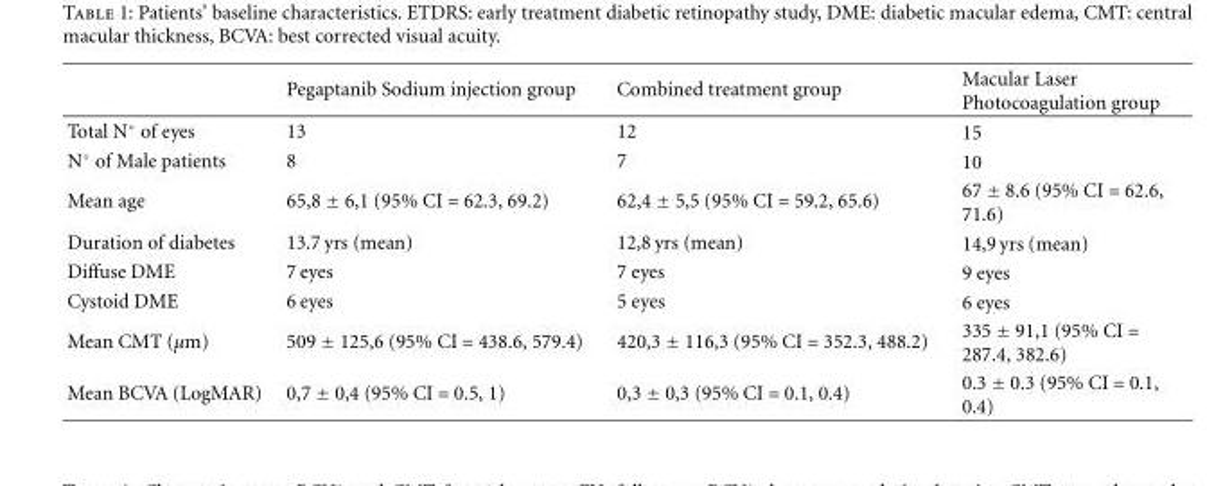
<table><thead><tr><td></td><td>Pegaptanib Sodium injection group</td><td>Combined treatment group</td><td>Macular Laser Photocoagulation group</td></tr></thead><tbody><tr><td>Total N◦ of eyes</td><td>13</td><td>12</td><td>15</td></tr><tr><td>N◦ of Male patients</td><td>8</td><td>7</td><td>10</td></tr><tr><td>Mean age</td><td>65,8 ± 6,1 (95% CI = 62.3, 69.2)</td><td>62,4 ± 5,5 (95% CI = 59.2, 65.6)</td><td>67 ± 8.6 (95% CI = 62.6, 71.6)</td></tr><tr><td>Duration of diabetes</td><td>13.7 yrs (mean)</td><td>12,8 yrs (mean)</td><td>14,9 yrs (mean)</td></tr><tr><td>Diffuse DME</td><td>7 eyes</td><td>7 eyes</td><td>9 eyes</td></tr><tr><td>Cystoid DME</td><td>6 eyes</td><td>5 eyes</td><td>6 eyes</td></tr><tr><td>Mean CMT (µm)</td><td>509 ± 125,6 (95% CI = 438.6, 579.4)</td><td>420,3 ± 116,3 (95% CI = 352.3, 488.2)</td><td>335 ± 91,1 (95% CI = 287.4, 382.6)</td></tr><tr><td>Mean BCVA (LogMAR)</td><td>0,7 ± 0,4 (95% CI = 0.5, 1)</td><td>0,3 ± 0,3 (95% CI = 0.1, 0.4)</td><td>0.3 ± 0.3 (95% CI = 0.1, 0.4)</td></tr></tbody></table>